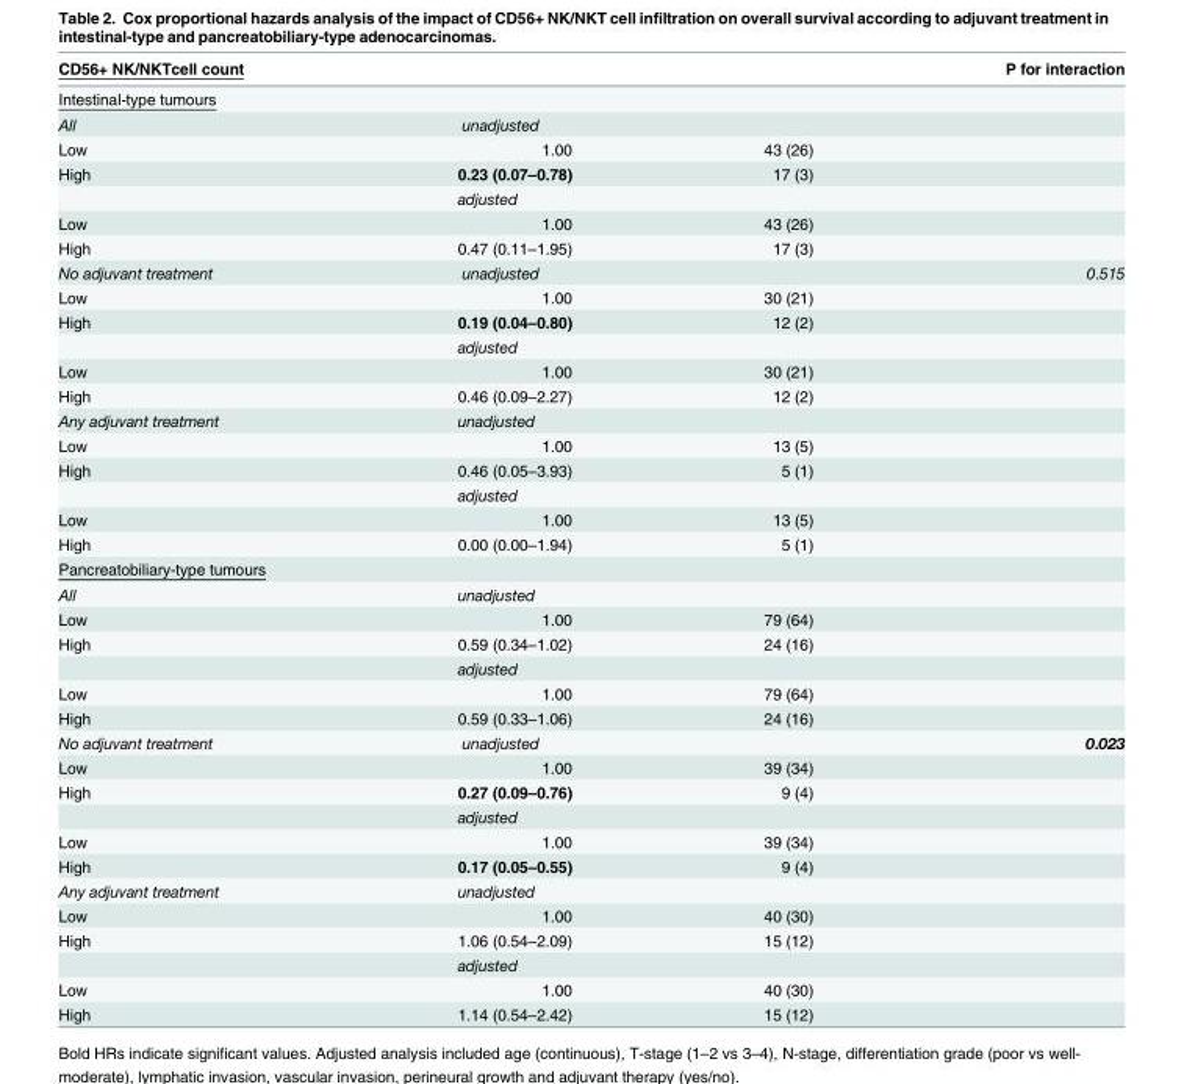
<table><thead><tr><td>CD56+ NK/NKTcell count</td><td></td><td></td><td>P for interaction</td></tr></thead><tbody><tr><td colspan="4">Intestinal-type tumours</td></tr><tr><td>All</td><td>unadjusted</td><td></td><td></td></tr><tr><td>Low</td><td>1.00</td><td>43 (26)</td><td></td></tr><tr><td rowspan="2">High</td><td>0.23 (0.07–0.78)</td><td>17 (3)</td><td></td></tr><tr><td>adjusted</td><td></td><td></td></tr><tr><td>Low</td><td>1.00</td><td>43 (26)</td><td></td></tr><tr><td>High</td><td>0.47 (0.11–1.95)</td><td>17 (3)</td><td></td></tr><tr><td>No adjuvant treatment</td><td>unadjusted</td><td></td><td>0.515</td></tr><tr><td>Low</td><td>1.00</td><td>30 (21)</td><td></td></tr><tr><td rowspan="2">High</td><td>0.19 (0.04–0.80)</td><td>12 (2)</td><td></td></tr><tr><td>adjusted</td><td></td><td></td></tr><tr><td>Low</td><td>1.00</td><td>30 (21)</td><td></td></tr><tr><td>High</td><td>0.46 (0.09–2.27)</td><td>12 (2)</td><td></td></tr><tr><td>Any adjuvant treatment</td><td>unadjusted</td><td></td><td></td></tr><tr><td>Low</td><td>1.00</td><td>13 (5)</td><td></td></tr><tr><td rowspan="2">High</td><td>0.46 (0.05–3.93)</td><td>5 (1)</td><td></td></tr><tr><td>adjusted</td><td></td><td></td></tr><tr><td>Low</td><td>1.00</td><td>13 (5)</td><td></td></tr><tr><td>High</td><td>0.00 (0.00–1.94)</td><td>5 (1)</td><td></td></tr><tr><td colspan="4">Pancreatobiliary-type tumours</td></tr><tr><td>All</td><td>unadjusted</td><td></td><td></td></tr><tr><td>Low</td><td>1.00</td><td>79 (64)</td><td></td></tr><tr><td rowspan="2">High</td><td>0.59 (0.34–1.02)</td><td>24 (16)</td><td></td></tr><tr><td>adjusted</td><td></td><td></td></tr><tr><td>Low</td><td>1.00</td><td>79 (64)</td><td></td></tr><tr><td>High</td><td>0.59 (0.33–1.06)</td><td>24 (16)</td><td></td></tr><tr><td>No adjuvant treatment</td><td>unadjusted</td><td></td><td>0.023</td></tr><tr><td>Low</td><td>1.00</td><td>39 (34)</td><td></td></tr><tr><td rowspan="2">High</td><td>0.27 (0.09–0.76)</td><td>9 (4)</td><td></td></tr><tr><td>adjusted</td><td></td><td></td></tr><tr><td>Low</td><td>1.00</td><td>39 (34)</td><td></td></tr><tr><td>High</td><td>0.17 (0.05–0.55)</td><td>9 (4)</td><td></td></tr><tr><td>Any adjuvant treatment</td><td>unadjusted</td><td></td><td></td></tr><tr><td>Low</td><td>1.00</td><td>40 (30)</td><td></td></tr><tr><td rowspan="2">High</td><td>1.06 (0.54–2.09)</td><td>15 (12)</td><td></td></tr><tr><td>adjusted</td><td></td><td></td></tr><tr><td>Low</td><td>1.00</td><td>40 (30)</td><td></td></tr><tr><td>High</td><td>1.14 (0.54–2.42)</td><td>15 (12)</td><td></td></tr></tbody></table>